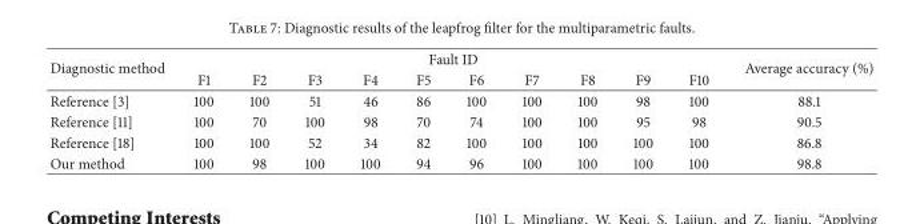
<table><thead><tr><td rowspan="2">Diagnostic method</td><td colspan="10">Fault ID</td><td rowspan="2">Average accuracy (%)</td></tr><tr><td>F1</td><td>F2</td><td>F3</td><td>F4</td><td>F5</td><td>F6</td><td>F7</td><td>F8</td><td>F9</td><td>F10</td></tr></thead><tbody><tr><td>Reference [3]</td><td>100</td><td>100</td><td>51</td><td>46</td><td>86</td><td>100</td><td>100</td><td>100</td><td>98</td><td>100</td><td>88.1</td></tr><tr><td>Reference [11]</td><td>100</td><td>70</td><td>100</td><td>98</td><td>70</td><td>74</td><td>100</td><td>100</td><td>95</td><td>98</td><td>90.5</td></tr><tr><td>Reference [18]</td><td>100</td><td>100</td><td>52</td><td>34</td><td>82</td><td>100</td><td>100</td><td>100</td><td>100</td><td>100</td><td>86.8</td></tr><tr><td>Our method</td><td>100</td><td>98</td><td>100</td><td>100</td><td>94</td><td>96</td><td>100</td><td>100</td><td>100</td><td>100</td><td>98.8</td></tr></tbody></table>